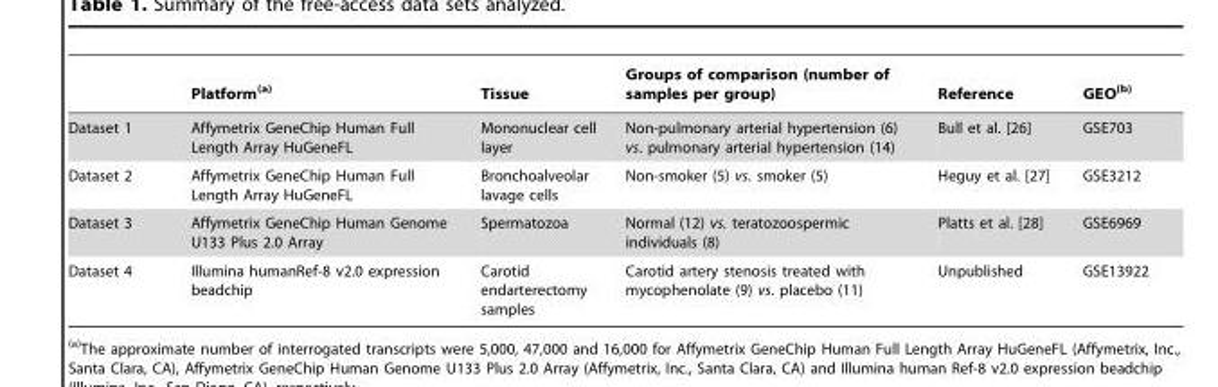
<table><thead><tr><td></td><td>Platform(a)</td><td>Tissue</td><td>Groups of comparison (number of samples per group)</td><td>Reference</td><td>GEO(b)</td></tr></thead><tbody><tr><td>Dataset 1</td><td>Affymetrix GeneChip Human Full Length Array HuGeneFL</td><td>Mononuclear cell layer</td><td>Non-pulmonary arterial hypertension (6) vs. pulmonary arterial hypertension (14)</td><td>Bull et al. [26]</td><td>GSE703</td></tr><tr><td>Dataset 2</td><td>Affymetrix GeneChip Human Full Length Array HuGeneFL</td><td>Bronchoalveolar lavage cells</td><td>Non-smoker (5) vs. smoker (5)</td><td>Heguy et al. [27]</td><td>GSE3212</td></tr><tr><td>Dataset 3</td><td>Affymetrix GeneChip Human Genome U133 Plus 2.0 Array</td><td>Spermatozoa</td><td>Normal (12) vs. teratozoospermic individuals (8)</td><td>Platts et al. [28]</td><td>GSE6969</td></tr><tr><td>Dataset 4</td><td>Illumina humanRef-8 v2.0 expression beadchip</td><td>Carotid endarterectomy samples</td><td>Carotid artery stenosis treated with mycophenolate (9) vs. placebo (11)</td><td>Unpublished</td><td>GSE13922</td></tr></tbody></table>